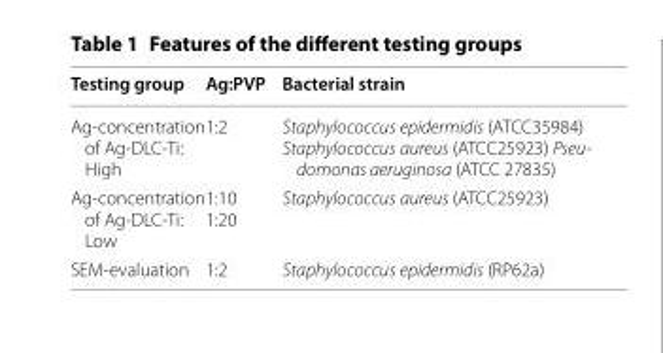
<table><thead><tr><td>Testing group</td><td>Ag:PVP</td><td>Bacterial strain</td></tr></thead><tbody><tr><td>Ag‑concentration of Ag‑DLC‑Ti: High</td><td>1:2</td><td>Staphylococcus epidermidis (ATCC35984) Staphylococcus aureus (ATCC25923) Pseu- domonas aeruginosa (ATCC 27835)</td></tr><tr><td>Ag‑concentration of Ag‑DLC‑Ti: Low</td><td>1:10 1:20</td><td>Staphylococcus aureus (ATCC25923)</td></tr><tr><td>SEM‑evaluation</td><td>1:2</td><td>Staphylococcus epidermidis (RP62a)</td></tr></tbody></table>